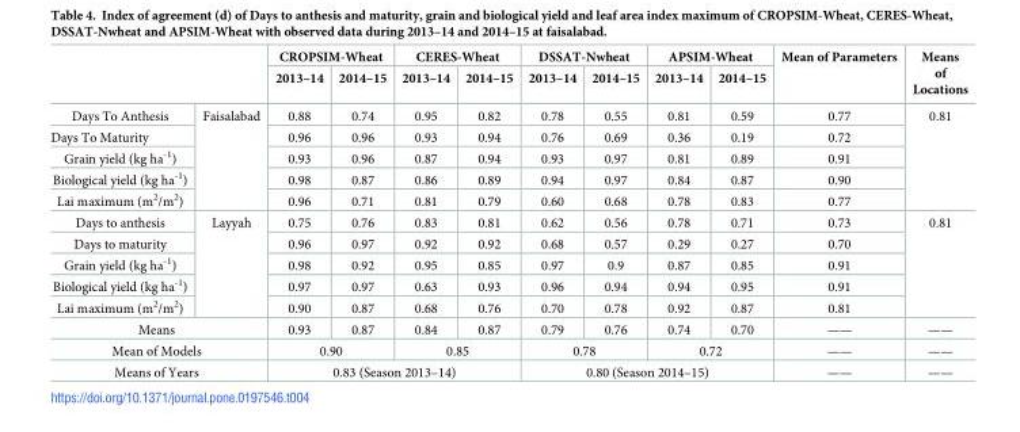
<table><thead><tr><td rowspan="2"></td><td rowspan="2"></td><td colspan="2">CROPSIM-Wheat</td><td colspan="2">CERES-Wheat</td><td colspan="2">DSSAT-Nwheat</td><td colspan="2">APSIM-Wheat</td><td rowspan="2">Mean of Parameters</td><td rowspan="2">Means of Locations</td></tr><tr><td>2013–14</td><td>2014–15</td><td>2013–14</td><td>2014–15</td><td>2013–14</td><td>2014–15</td><td>2013–14</td><td>2014–15</td></tr></thead><tbody><tr><td>Days To Anthesis</td><td rowspan="5">Faisalabad</td><td>0.88</td><td>0.74</td><td>0.95</td><td>0.82</td><td>0.78</td><td>0.55</td><td>0.81</td><td>0.59</td><td>0.77</td><td rowspan="5">0.81</td></tr><tr><td>Days To Maturity</td><td>0.96</td><td>0.96</td><td>0.93</td><td>0.94</td><td>0.76</td><td>0.69</td><td>0.36</td><td>0.19</td><td>0.72</td></tr><tr><td>Grain yield (kg ha<sup>-1</sup>)</td><td>0.93</td><td>0.96</td><td>0.87</td><td>0.94</td><td>0.93</td><td>0.97</td><td>0.81</td><td>0.89</td><td>0.91</td></tr><tr><td>Biological yield (kg ha<sup>-1</sup>)</td><td>0.98</td><td>0.87</td><td>0.86</td><td>0.89</td><td>0.94</td><td>0.97</td><td>0.84</td><td>0.87</td><td>0.90</td></tr><tr><td>Lai maximum (m<sup>2</sup>/m<sup>2</sup>)</td><td>0.96</td><td>0.71</td><td>0.81</td><td>0.79</td><td>0.60</td><td>0.68</td><td>0.78</td><td>0.83</td><td>0.77</td></tr><tr><td>Days to anthesis</td><td rowspan="5">Layyah</td><td>0.75</td><td>0.76</td><td>0.83</td><td>0.81</td><td>0.62</td><td>0.56</td><td>0.78</td><td>0.71</td><td>0.73</td><td rowspan="5">0.81</td></tr><tr><td>Days to maturity</td><td>0.96</td><td>0.97</td><td>0.92</td><td>0.92</td><td>0.68</td><td>0.57</td><td>0.29</td><td>0.27</td><td>0.70</td></tr><tr><td>Grain yield (kg ha<sup>-1</sup>)</td><td>0.98</td><td>0.92</td><td>0.95</td><td>0.85</td><td>0.97</td><td>0.9</td><td>0.87</td><td>0.85</td><td>0.91</td></tr><tr><td>Biological yield (kg ha<sup>-1</sup>)</td><td>0.97</td><td>0.97</td><td>0.63</td><td>0.93</td><td>0.96</td><td>0.94</td><td>0.94</td><td>0.95</td><td>0.91</td></tr><tr><td>Lai maximum (m<sup>2</sup>/m<sup>2</sup>)</td><td>0.90</td><td>0.87</td><td>0.68</td><td>0.76</td><td>0.70</td><td>0.78</td><td>0.92</td><td>0.87</td><td>0.81</td></tr><tr><td colspan="2">Means</td><td>0.93</td><td>0.87</td><td>0.84</td><td>0.87</td><td>0.79</td><td>0.76</td><td>0.74</td><td>0.70</td><td>——</td><td>——</td></tr><tr><td colspan="2">Mean of Models</td><td colspan="2">0.90</td><td colspan="2">0.85</td><td colspan="2">0.78</td><td colspan="2">0.72</td><td>——</td><td>——</td></tr><tr><td colspan="2">Means of Years</td><td colspan="4">0.83 (Season 2013–14)</td><td colspan="4">0.80 (Season 2014–15)</td><td>——</td><td>——</td></tr></tbody></table>